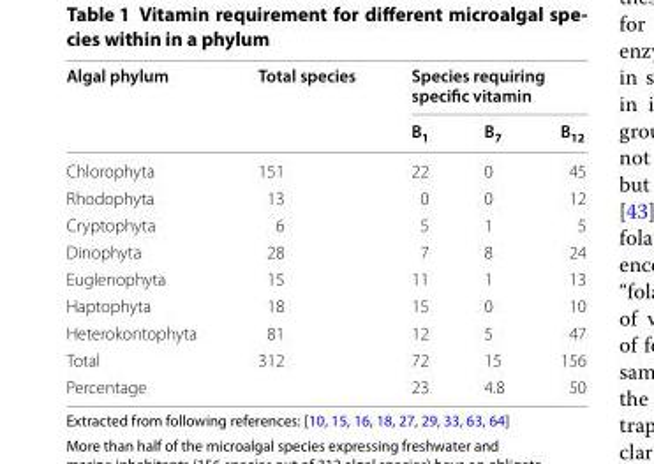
<table><thead><tr><td rowspan="2">Algal phylum</td><td rowspan="2">Total species</td><td colspan="3">Species requiring specific vitamin</td></tr><tr><td>B<sub>1</sub></td><td>B<sub>7</sub></td><td>B<sub>12</sub></td></tr></thead><tbody><tr><td>Chlorophyta</td><td>151</td><td>22</td><td>0</td><td>45</td></tr><tr><td>Rhodophyta</td><td>13</td><td>0</td><td>0</td><td>12</td></tr><tr><td>Cryptophyta</td><td>6</td><td>5</td><td>1</td><td>5</td></tr><tr><td>Dinophyta</td><td>28</td><td>7</td><td>8</td><td>24</td></tr><tr><td>Euglenophyta</td><td>15</td><td>11</td><td>1</td><td>13</td></tr><tr><td>Haptophyta</td><td>18</td><td>15</td><td>0</td><td>10</td></tr><tr><td>Heterokontophyta</td><td>81</td><td>12</td><td>5</td><td>47</td></tr><tr><td>Total</td><td>312</td><td>72</td><td>15</td><td>156</td></tr><tr><td>Percentage</td><td></td><td>23</td><td>4.8</td><td>50</td></tr></tbody></table>